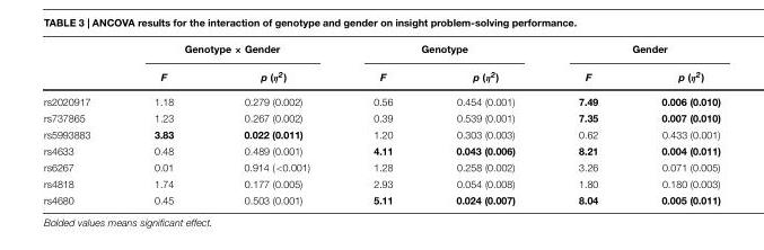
<table><thead><tr><td rowspan="2"></td><td colspan="2">Genotype × Gender</td><td colspan="2">Genotype</td><td colspan="2">Gender</td></tr><tr><td>F</td><td>p (η<sup>2</sup>)</td><td>F</td><td>p (η<sup>2</sup>)</td><td>F</td><td>p (η<sup>2</sup>)</td></tr></thead><tbody><tr><td>rs2020917</td><td>1.18</td><td>0.279 (0.002)</td><td>0.56</td><td>0.454 (0.001)</td><td>7.49</td><td>0.006 (0.010)</td></tr><tr><td>rs737865</td><td>1.23</td><td>0.267 (0.002)</td><td>0.39</td><td>0.539 (0.001)</td><td>7.35</td><td>0.007 (0.010)</td></tr><tr><td>rs5993883</td><td>3.83</td><td>0.022 (0.011)</td><td>1.20</td><td>0.303 (0.003)</td><td>0.62</td><td>0.433 (0.001)</td></tr><tr><td>rs4633</td><td>0.48</td><td>0.489 (0.001)</td><td>4.11</td><td>0.043 (0.006)</td><td>8.21</td><td>0.004 (0.011)</td></tr><tr><td>rs6267</td><td>0.01</td><td>0.914 (&lt;0.001)</td><td>1.28</td><td>0.258 (0.002)</td><td>3.26</td><td>0.071 (0.005)</td></tr><tr><td>rs4818</td><td>1.74</td><td>0.177 (0.005)</td><td>2.93</td><td>0.054 (0.008)</td><td>1.80</td><td>0.180 (0.003)</td></tr><tr><td>rs4680</td><td>0.45</td><td>0.503 (0.001)</td><td>5.11</td><td>0.024 (0.007)</td><td>8.04</td><td>0.005 (0.011)</td></tr></tbody></table>